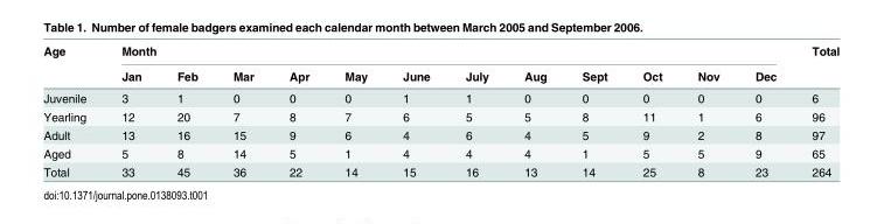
<table><thead><tr><td rowspan="2">Age</td><td colspan="12">Month</td><td rowspan="2">Total</td></tr><tr><td>Jan</td><td>Feb</td><td>Mar</td><td>Apr</td><td>May</td><td>June</td><td>July</td><td>Aug</td><td>Sept</td><td>Oct</td><td>Nov</td><td>Dec</td></tr></thead><tbody><tr><td>Juvenile</td><td>3</td><td>1</td><td>0</td><td>0</td><td>0</td><td>1</td><td>1</td><td>0</td><td>0</td><td>0</td><td>0</td><td>0</td><td>6</td></tr><tr><td>Yearling</td><td>12</td><td>20</td><td>7</td><td>8</td><td>7</td><td>6</td><td>5</td><td>5</td><td>8</td><td>11</td><td>1</td><td>6</td><td>96</td></tr><tr><td>Adult</td><td>13</td><td>16</td><td>15</td><td>9</td><td>6</td><td>4</td><td>6</td><td>4</td><td>5</td><td>9</td><td>2</td><td>8</td><td>97</td></tr><tr><td>Aged</td><td>5</td><td>8</td><td>14</td><td>5</td><td>1</td><td>4</td><td>4</td><td>4</td><td>1</td><td>5</td><td>5</td><td>9</td><td>65</td></tr><tr><td>Total</td><td>33</td><td>45</td><td>36</td><td>22</td><td>14</td><td>15</td><td>16</td><td>13</td><td>14</td><td>25</td><td>8</td><td>23</td><td>264</td></tr></tbody></table>